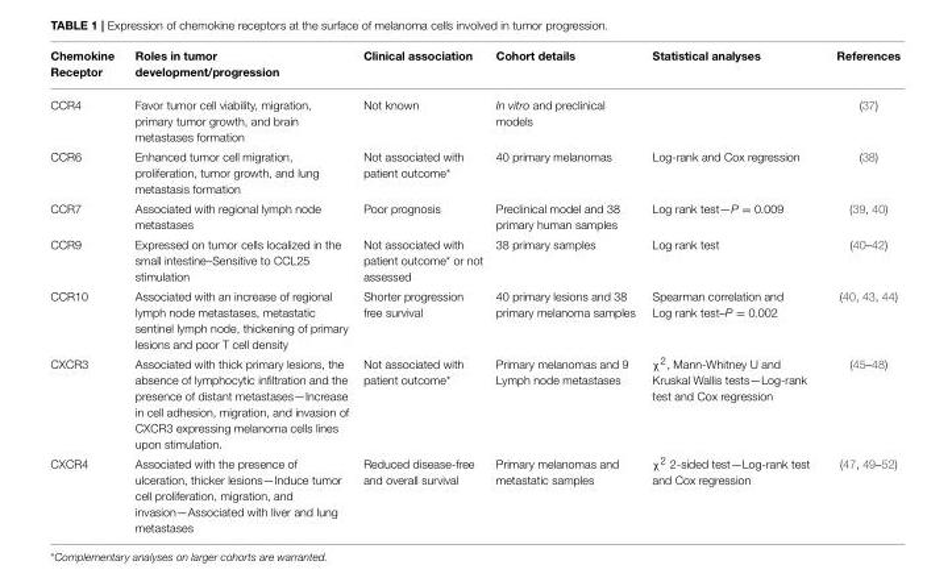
<table><thead><tr><td>Chemokine Receptor</td><td>Roles in tumor development/progression</td><td>Clinical association</td><td>Cohort details</td><td>Statistical analyses</td><td>References</td></tr></thead><tbody><tr><td>CCR4</td><td>Favor tumor cell viability, migration, primary tumor growth, and brain metastases formation</td><td>Not known</td><td>In vitro and preclinical models</td><td></td><td>(37)</td></tr><tr><td>CCR6</td><td>Enhanced tumor cell migration, proliferation, tumor growth, and lung metastasis formation</td><td>Not associated with patient outcome*</td><td>40 primary melanomas</td><td>Log-rank and Cox regression</td><td>(38)</td></tr><tr><td>CCR7</td><td>Associated with regional lymph node metastases</td><td>Poor prognosis</td><td>Preclinical model and 38 primary human samples</td><td>Log rank test—P = 0.009</td><td>(39, 40)</td></tr><tr><td>CCR9</td><td>Expressed on tumor cells localized in the small intestine–Sensitive to CCL25 stimulation</td><td>Not associated with patient outcome* or not assessed</td><td>38 primary samples</td><td>Log rank test</td><td>(40–42)</td></tr><tr><td>CCR10</td><td>Associated with an increase of regional lymph node metastases, metastatic sentinel lymph node, thickening of primary lesions and poor T cell density</td><td>Shorter progression free survival</td><td>40 primary lesions and 38 primary melanoma samples</td><td>Spearman correlation and Log rank test–P = 0.002</td><td>(40, 43, 44)</td></tr><tr><td>CXCR3</td><td>Associated with thick primary lesions, the absence of lymphocytic infiltration and the presence of distant metastases—Increase in cell adhesion, migration, and invasion of CXCR3 expressing melanoma cells lines upon stimulation.</td><td>Not associated with patient outcome*</td><td>Primary melanomas and 9 Lymph node metastases</td><td>χ<sup>2</sup>, Mann-Whitney U and Kruskal Wallis tests—Log-rank test and Cox regression</td><td>(45–48)</td></tr><tr><td>CXCR4</td><td>Associated with the presence of ulceration, thicker lesions—Induce tumor cell proliferation, migration, and invasion—Associated with liver and lung metastases</td><td>Reduced disease-free and overall survival</td><td>Primary melanomas and metastatic samples</td><td>χ<sup>2</sup> 2-sided test—Log-rank test and Cox regression</td><td>(47, 49–52)</td></tr></tbody></table>